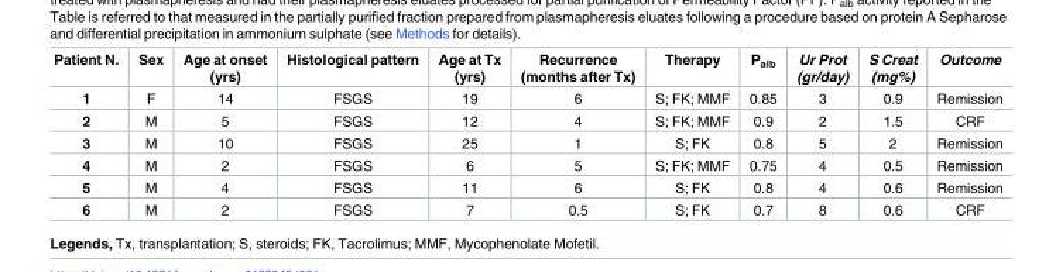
<table><thead><tr><td>Patient N.</td><td>Sex</td><td>Age at onset (yrs)</td><td>Histological pattern</td><td>Age at Tx (yrs)</td><td>Recurrence (months after Tx)</td><td>Therapy</td><td>P<sub>alb</sub></td><td>Ur Prot (gr/day)</td><td>S Creat (mg%)</td><td>Outcome</td></tr></thead><tbody><tr><td>1</td><td>F</td><td>14</td><td>FSGS</td><td>19</td><td>6</td><td>S; FK; MMF</td><td>0.85</td><td>3</td><td>0.9</td><td>Remission</td></tr><tr><td>2</td><td>M</td><td>5</td><td>FSGS</td><td>12</td><td>4</td><td>S; FK; MMF</td><td>0.9</td><td>2</td><td>1.5</td><td>CRF</td></tr><tr><td>3</td><td>M</td><td>10</td><td>FSGS</td><td>25</td><td>1</td><td>S; FK</td><td>0.8</td><td>5</td><td>2</td><td>Remission</td></tr><tr><td>4</td><td>M</td><td>2</td><td>FSGS</td><td>6</td><td>5</td><td>S; FK; MMF</td><td>0.75</td><td>4</td><td>0.5</td><td>Remission</td></tr><tr><td>5</td><td>M</td><td>4</td><td>FSGS</td><td>11</td><td>6</td><td>S; FK</td><td>0.8</td><td>4</td><td>0.6</td><td>Remission</td></tr><tr><td>6</td><td>M</td><td>2</td><td>FSGS</td><td>7</td><td>0.5</td><td>S; FK</td><td>0.7</td><td>8</td><td>0.6</td><td>CRF</td></tr></tbody></table>